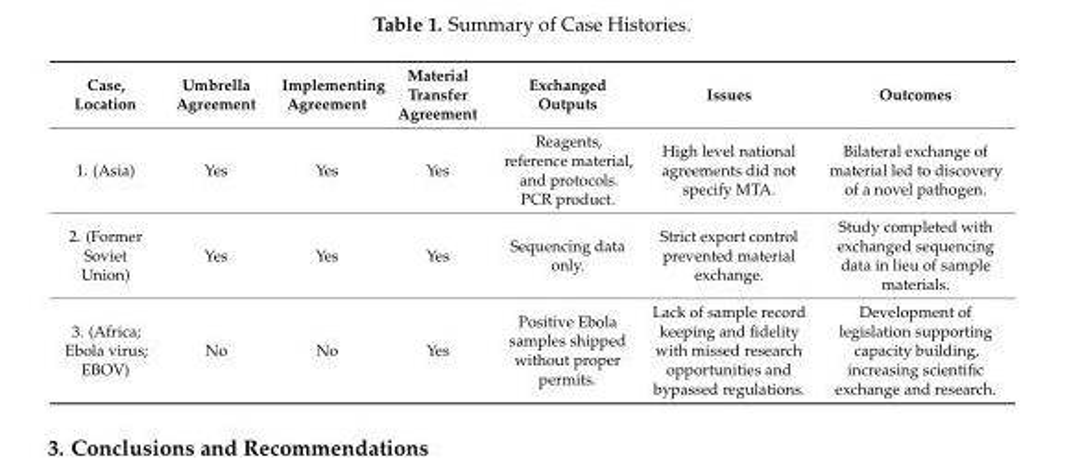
<table><thead><tr><td>Case, Location</td><td>Umbrella Agreement</td><td>Implementing Agreement</td><td>Material Transfer Agreement</td><td>Exchanged Outputs</td><td>Issues</td><td>Outcomes</td></tr></thead><tbody><tr><td>1. (Asia)</td><td>Yes</td><td>Yes</td><td>Yes</td><td>Reagents, reference material, and protocols. PCR product.</td><td>High level national agreements did not specify MTA.</td><td>Bilateral exchange of material led to discovery of a novel pathogen.</td></tr><tr><td>2. (Former Soviet Union)</td><td>Yes</td><td>Yes</td><td>Yes</td><td>Sequencing data only.</td><td>Strict export control prevented material exchange.</td><td>Study completed with exchanged sequencing data in lieu of sample materials.</td></tr><tr><td>3. (Africa; Ebola virus; EBOV)</td><td>No</td><td>No</td><td>Yes</td><td>Positive Ebola samples shipped without proper permits.</td><td>Lack of sample record keeping and fidelity with missed research opportunities and bypassed regulations.</td><td>Development of legislation supporting capacity building, increasing scientific exchange and research.</td></tr></tbody></table>